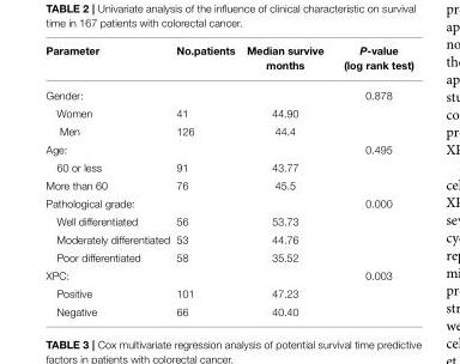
<table><thead><tr><td>Parameter</td><td>No.patients</td><td>Median survive months</td><td>P-value (log rank test)</td></tr></thead><tbody><tr><td>Gender:</td><td></td><td></td><td>0.878</td></tr><tr><td>Women</td><td>41</td><td>44.90</td><td></td></tr><tr><td>Men</td><td>126</td><td>44.4</td><td></td></tr><tr><td>Age:</td><td></td><td></td><td>0.495</td></tr><tr><td>60 or less</td><td>91</td><td>43.77</td><td></td></tr><tr><td>More than 60</td><td>76</td><td>45.5</td><td></td></tr><tr><td>Pathological grade:</td><td></td><td></td><td>0.000</td></tr><tr><td>Well differentiated</td><td>56</td><td>53.73</td><td></td></tr><tr><td>Moderately differentiated</td><td>53</td><td>44.76</td><td></td></tr><tr><td>Poor differentiated</td><td>58</td><td>35.52</td><td></td></tr><tr><td>XPC:</td><td></td><td></td><td>0.003</td></tr><tr><td>Positive</td><td>101</td><td>47.23</td><td></td></tr><tr><td>Negative</td><td>66</td><td>40.40</td><td></td></tr></tbody></table>